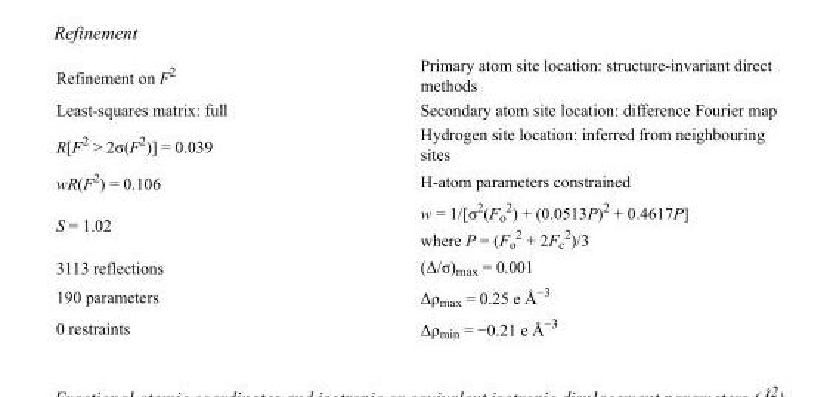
<table><tbody><tr><td>Refinement on F<sup>2</sup></td><td>Primary atom site location: structure-invariant direct methods</td></tr><tr><td>Least-squares matrix: full</td><td>Secondary atom site location: difference Fourier map</td></tr><tr><td>R[F<sup>2</sup> &gt; 2σ(F<sup>2</sup>)] = 0.039</td><td>Hydrogen site location: inferred from neighbouring sites</td></tr><tr><td>wR(F<sup>2</sup>) = 0.106</td><td>H-atom parameters constrained</td></tr><tr><td>S = 1.02</td><td>w = 1/[σ<sup>2</sup>(F<sub>o</sub> <sup>2</sup>) + (0.0513P)<sup>2</sup> + 0.4617P] where P = (F<sub>o</sub> <sup>2</sup> + 2F<sub>c</sub> <sup>2</sup>)/3</td></tr><tr><td>3113 reflections</td><td>(Δ/σ)<sub>max</sub> = 0.001</td></tr><tr><td>190 parameters</td><td>Δρ<sub>max</sub> = 0.25 e Å<sup>−3</sup></td></tr><tr><td>0 restraints</td><td>Δρ<sub>min</sub> = −0.21 e Å<sup>−3</sup></td></tr></tbody></table>